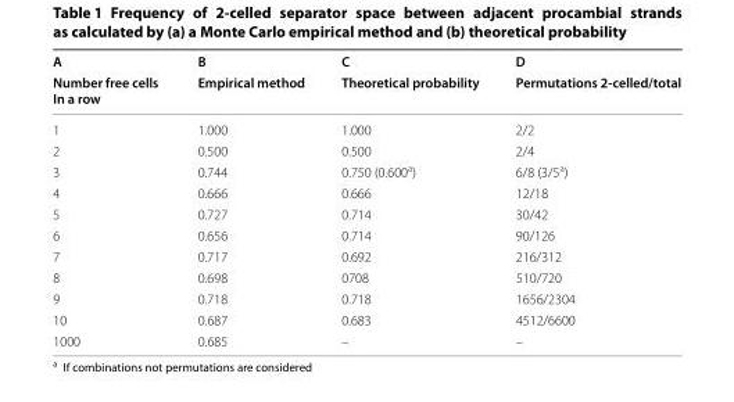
<table><thead><tr><td rowspan="2">A Number free cells In a row</td><td rowspan="2">B Empirical method</td><td rowspan="2">C Theoretical probability</td><td rowspan="2">D Permutations 2-celled/total</td></tr><tr></tr></thead><tbody><tr><td>1</td><td>1.000</td><td>1.000</td><td>2/2</td></tr><tr><td>2</td><td>0.500</td><td>0.500</td><td>2/4</td></tr><tr><td>3</td><td>0.744</td><td>0.750 (0.600<sup>a</sup>)</td><td>6/8 (3/5<sup>a</sup>)</td></tr><tr><td>4</td><td>0.666</td><td>0.666</td><td>12/18</td></tr><tr><td>5</td><td>0.727</td><td>0.714</td><td>30/42</td></tr><tr><td>6</td><td>0.656</td><td>0.714</td><td>90/126</td></tr><tr><td>7</td><td>0.717</td><td>0.692</td><td>216/312</td></tr><tr><td>8</td><td>0.698</td><td>0708</td><td>510/720</td></tr><tr><td>9</td><td>0.718</td><td>0.718</td><td>1656/2304</td></tr><tr><td>10</td><td>0.687</td><td>0.683</td><td>4512/6600</td></tr><tr><td>1000</td><td>0.685</td><td>–</td><td>–</td></tr></tbody></table>